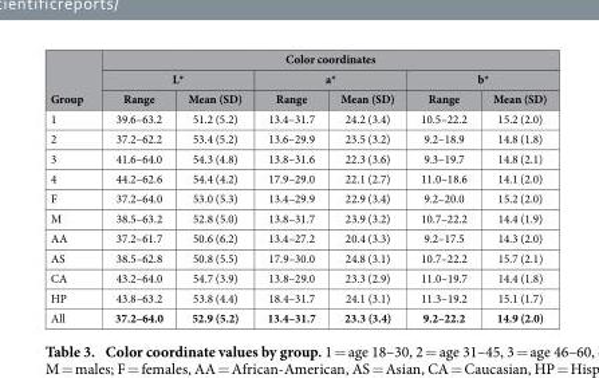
<table><thead><tr><td rowspan="3">Group</td><td colspan="6">Color coordinates</td></tr><tr><td colspan="2">L*</td><td colspan="2">a*</td><td colspan="2">b*</td></tr><tr><td>Range</td><td>Mean (SD)</td><td>Range</td><td>Mean (SD)</td><td>Range</td><td>Mean (SD)</td></tr></thead><tbody><tr><td>1</td><td>39.6–63.2</td><td>51.2 (5.2)</td><td>13.4–31.7</td><td>24.2 (3.4)</td><td>10.5–22.2</td><td>15.2 (2.0)</td></tr><tr><td>2</td><td>37.2–62.2</td><td>53.4 (5.2)</td><td>13.6–29.9</td><td>23.5 (3.2)</td><td>9.2–18.9</td><td>14.8 (1.8)</td></tr><tr><td>3</td><td>41.6–64.0</td><td>54.3 (4.8)</td><td>13.8–31.6</td><td>22.3 (3.6)</td><td>9.3–19.7</td><td>14.8 (2.1)</td></tr><tr><td>4</td><td>44.2–62.6</td><td>54.4 (4.2)</td><td>17.9–29.0</td><td>22.1 (2.7)</td><td>11.0–18.6</td><td>14.1 (2.0)</td></tr><tr><td>F</td><td>37.2–64.0</td><td>53.0 (5.3)</td><td>13.4–29.9</td><td>22.9 (3.4)</td><td>9.2–20.0</td><td>15.2 (2.0)</td></tr><tr><td>M</td><td>38.5–63.2</td><td>52.8 (5.0)</td><td>13.8–31.7</td><td>23.9 (3.2)</td><td>10.7–22.2</td><td>14.4 (1.9)</td></tr><tr><td>AA</td><td>37.2–61.7</td><td>50.6 (6.2)</td><td>13.4–27.2</td><td>20.4 (3.3)</td><td>9.2–17.5</td><td>14.3 (2.0)</td></tr><tr><td>AS</td><td>38.5–62.8</td><td>50.8 (5.5)</td><td>17.9–30.0</td><td>24.8 (3.1)</td><td>10.7–22.2</td><td>15.7 (2.1)</td></tr><tr><td>CA</td><td>43.2–64.0</td><td>54.7 (3.9)</td><td>13.8–29.0</td><td>23.3 (2.9)</td><td>11.0–19.7</td><td>14.4 (1.8)</td></tr><tr><td>HP</td><td>43.8–63.2</td><td>53.8 (4.4)</td><td>18.4–31.7</td><td>24.1 (3.1)</td><td>11.3–19.2</td><td>15.1 (1.7)</td></tr><tr><td>All</td><td>37.2–64.0</td><td>52.9 (5.2)</td><td>13.4–31.7</td><td>23.3 (3.4)</td><td>9.2–22.2</td><td>14.9 (2.0)</td></tr></tbody></table>